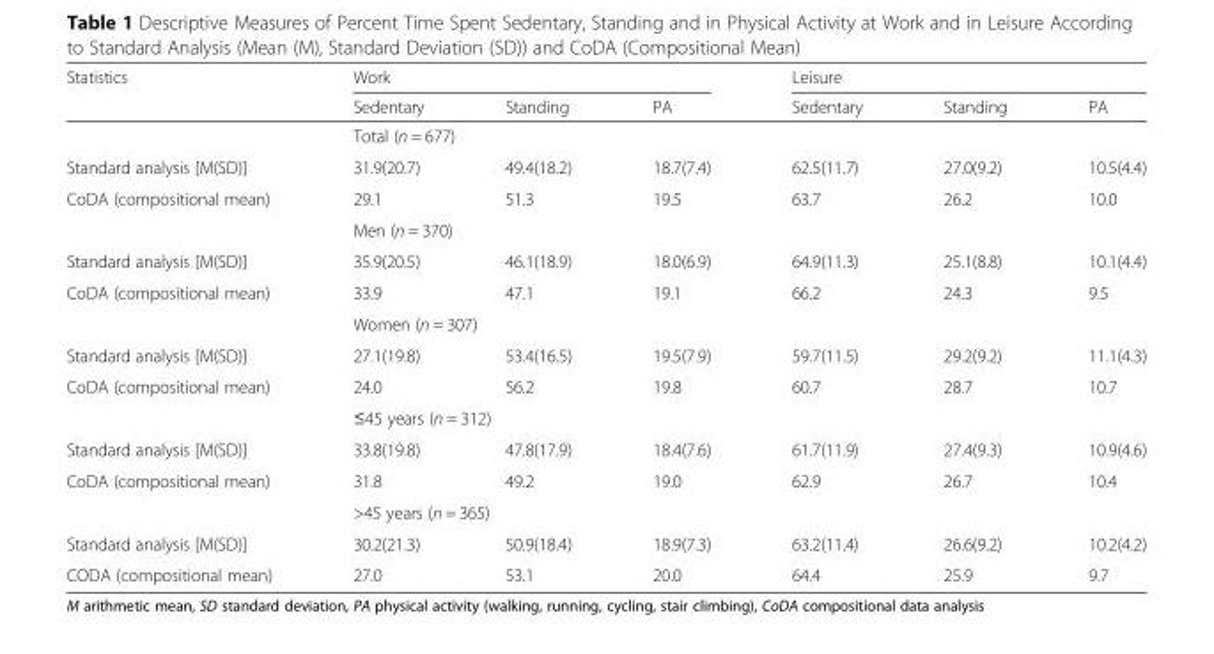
<table><thead><tr><td rowspan="2">Statistics</td><td colspan="3">Work</td><td colspan="3">Leisure</td></tr><tr><td>Sedentary</td><td>Standing</td><td>PA</td><td>Sedentary</td><td>Standing</td><td>PA</td></tr></thead><tbody><tr><td></td><td colspan="6">Total (n = 677)</td></tr><tr><td>Standard analysis [M(SD)]</td><td>31.9(20.7)</td><td>49.4(18.2)</td><td>18.7(7.4)</td><td>62.5(11.7)</td><td>27.0(9.2)</td><td>10.5(4.4)</td></tr><tr><td rowspan="2">CoDA (compositional mean)</td><td>29.1</td><td>51.3</td><td>19.5</td><td>63.7</td><td>26.2</td><td>10.0</td></tr><tr><td colspan="6">Men (n = 370)</td></tr><tr><td>Standard analysis [M(SD)]</td><td>35.9(20.5)</td><td>46.1(18.9)</td><td>18.0(6.9)</td><td>64.9(11.3)</td><td>25.1(8.8)</td><td>10.1(4.4)</td></tr><tr><td rowspan="2">CoDA (compositional mean)</td><td>33.9</td><td>47.1</td><td>19.1</td><td>66.2</td><td>24.3</td><td>9.5</td></tr><tr><td colspan="6">Women (n = 307)</td></tr><tr><td>Standard analysis [M(SD)]</td><td>27.1(19.8)</td><td>53.4(16.5)</td><td>19.5(7.9)</td><td>59.7(11.5)</td><td>29.2(9.2)</td><td>11.1(4.3)</td></tr><tr><td rowspan="2">CoDA (compositional mean)</td><td>24.0</td><td>56.2</td><td>19.8</td><td>60.7</td><td>28.7</td><td>10.7</td></tr><tr><td colspan="6">≤45 years (n = 312)</td></tr><tr><td>Standard analysis [M(SD)]</td><td>33.8(19.8)</td><td>47.8(17.9)</td><td>18.4(7.6)</td><td>61.7(11.9)</td><td>27.4(9.3)</td><td>10.9(4.6)</td></tr><tr><td rowspan="2">CoDA (compositional mean)</td><td>31.8</td><td>49.2</td><td>19.0</td><td>62.9</td><td>26.7</td><td>10.4</td></tr><tr><td colspan="6">&gt;45 years (n = 365)</td></tr><tr><td>Standard analysis [M(SD)]</td><td>30.2(21.3)</td><td>50.9(18.4)</td><td>18.9(7.3)</td><td>63.2(11.4)</td><td>26.6(9.2)</td><td>10.2(4.2)</td></tr><tr><td>CODA (compositional mean)</td><td>27.0</td><td>53.1</td><td>20.0</td><td>64.4</td><td>25.9</td><td>9.7</td></tr></tbody></table>